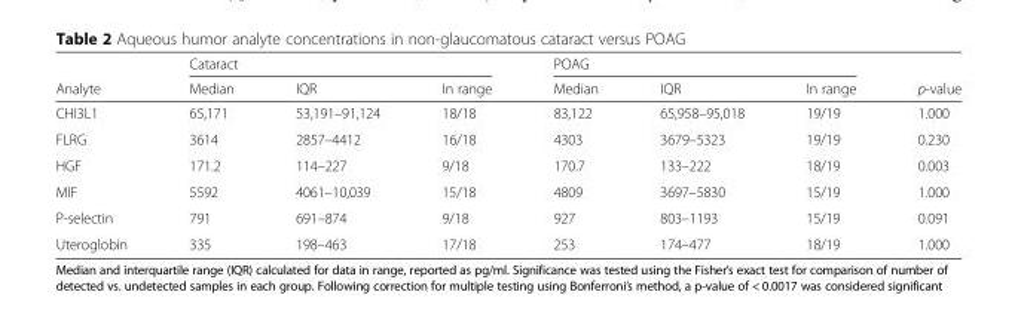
<table><thead><tr><td rowspan="2">Analyte</td><td colspan="3">Cataract</td><td colspan="3">POAG</td><td rowspan="2">p-value</td></tr><tr><td>Median</td><td>IQR</td><td>In range</td><td>Median</td><td>IQR</td><td>In range</td></tr></thead><tbody><tr><td>CHI3L1</td><td>65,171</td><td>53,191–91,124</td><td>18/18</td><td>83,122</td><td>65,958–95,018</td><td>19/19</td><td>1.000</td></tr><tr><td>FLRG</td><td>3614</td><td>2857–4412</td><td>16/18</td><td>4303</td><td>3679–5323</td><td>19/19</td><td>0.230</td></tr><tr><td>HGF</td><td>171.2</td><td>114–227</td><td>9/18</td><td>170.7</td><td>133–222</td><td>18/19</td><td>0.003</td></tr><tr><td>MIF</td><td>5592</td><td>4061–10,039</td><td>15/18</td><td>4809</td><td>3697–5830</td><td>15/19</td><td>1.000</td></tr><tr><td>P-selectin</td><td>791</td><td>691–874</td><td>9/18</td><td>927</td><td>803–1193</td><td>15/19</td><td>0.091</td></tr><tr><td>Uteroglobin</td><td>335</td><td>198–463</td><td>17/18</td><td>253</td><td>174–477</td><td>18/19</td><td>1.000</td></tr></tbody></table>